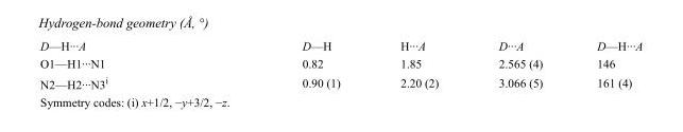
<table><tbody><tr><td>D—H···A</td><td>D—H</td><td>H···A</td><td>D···A</td><td>D—H···A</td></tr><tr><td>O1—H1···N1</td><td>0.82</td><td>1.85</td><td>2.565 (4)</td><td>146</td></tr><tr><td>N2—H2···N3<sup>i</sup></td><td>0.90 (1)</td><td>2.20 (2)</td><td>3.066 (5)</td><td>161 (4)</td></tr></tbody></table>